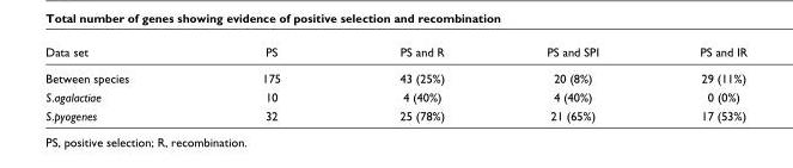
<table><thead><tr><td>Data set</td><td>PS</td><td>PS and R</td><td>PS and SPI</td><td>PS and IR</td></tr></thead><tbody><tr><td>Between species</td><td>175</td><td>43 (25%)</td><td>20 (8%)</td><td>29 (11%)</td></tr><tr><td>S.agalactiae</td><td>10</td><td>4 (40%)</td><td>4 (40%)</td><td>0 (0%)</td></tr><tr><td>S.pyogenes</td><td>32</td><td>25 (78%)</td><td>21 (65%)</td><td>17 (53%)</td></tr></tbody></table>